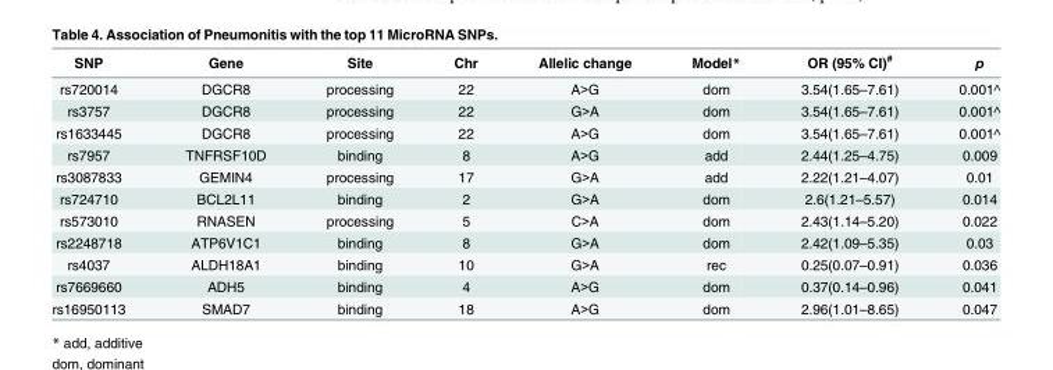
<table><thead><tr><td>SNP</td><td>Gene</td><td>Site</td><td>Chr</td><td>Allelic change</td><td>Model*</td><td>OR (95% CI)<sup>#</sup></td><td>p</td></tr></thead><tbody><tr><td>rs720014</td><td>DGCR8</td><td>processing</td><td>22</td><td>A&gt;G</td><td>dom</td><td>3.54(1.65–7.61)</td><td>0.001^</td></tr><tr><td>rs3757</td><td>DGCR8</td><td>processing</td><td>22</td><td>G&gt;A</td><td>dom</td><td>3.54(1.65–7.61)</td><td>0.001^</td></tr><tr><td>rs1633445</td><td>DGCR8</td><td>processing</td><td>22</td><td>A&gt;G</td><td>dom</td><td>3.54(1.65–7.61)</td><td>0.001^</td></tr><tr><td>rs7957</td><td>TNFRSF10D</td><td>binding</td><td>8</td><td>A&gt;G</td><td>add</td><td>2.44(1.25–4.75)</td><td>0.009</td></tr><tr><td>rs3087833</td><td>GEMIN4</td><td>processing</td><td>17</td><td>G&gt;A</td><td>add</td><td>2.22(1.21–4.07)</td><td>0.01</td></tr><tr><td>rs724710</td><td>BCL2L11</td><td>binding</td><td>2</td><td>G&gt;A</td><td>dom</td><td>2.6(1.21–5.57)</td><td>0.014</td></tr><tr><td>rs573010</td><td>RNASEN</td><td>processing</td><td>5</td><td>C&gt;A</td><td>dom</td><td>2.43(1.14–5.20)</td><td>0.022</td></tr><tr><td>rs2248718</td><td>ATP6V1C1</td><td>binding</td><td>8</td><td>G&gt;A</td><td>dom</td><td>2.42(1.09–5.35)</td><td>0.03</td></tr><tr><td>rs4037</td><td>ALDH18A1</td><td>binding</td><td>10</td><td>G&gt;A</td><td>rec</td><td>0.25(0.07–0.91)</td><td>0.036</td></tr><tr><td>rs7669660</td><td>ADH5</td><td>binding</td><td>4</td><td>A&gt;G</td><td>dom</td><td>0.37(0.14–0.96)</td><td>0.041</td></tr><tr><td>rs16950113</td><td>SMAD7</td><td>binding</td><td>18</td><td>A&gt;G</td><td>dom</td><td>2.96(1.01–8.65)</td><td>0.047</td></tr></tbody></table>